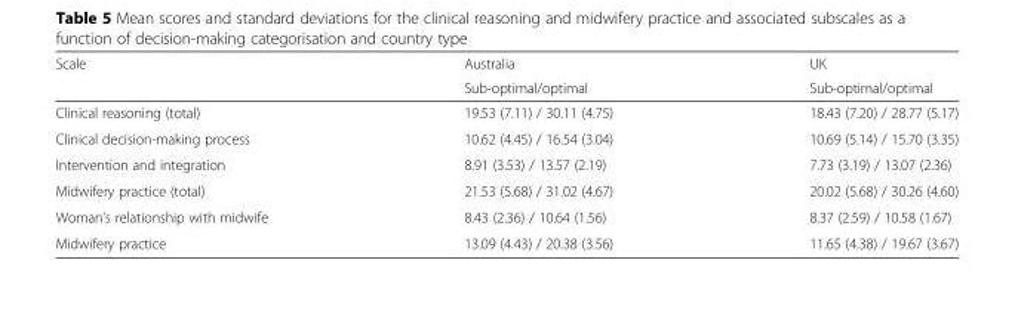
<table><thead><tr><td rowspan="2">Scale</td><td rowspan="2">Australia Sub-optimal/optimal</td><td rowspan="2">UK Sub-optimal/optimal</td></tr><tr></tr></thead><tbody><tr><td>Clinical reasoning (total)</td><td>19.53 (7.11) / 30.11 (4.75)</td><td>18.43 (7.20) / 28.77 (5.17)</td></tr><tr><td>Clinical decision-making process</td><td>10.62 (4.45) / 16.54 (3.04)</td><td>10.69 (5.14) / 15.70 (3.35)</td></tr><tr><td>Intervention and integration</td><td>8.91 (3.53) / 13.57 (2.19)</td><td>7.73 (3.19) / 13.07 (2.36)</td></tr><tr><td>Midwifery practice (total)</td><td>21.53 (5.68) / 31.02 (4.67)</td><td>20.02 (5.68) / 30.26 (4.60)</td></tr><tr><td>Woman’s relationship with midwife</td><td>8.43 (2.36) / 10.64 (1.56)</td><td>8.37 (2.59) / 10.58 (1.67)</td></tr><tr><td>Midwifery practice</td><td>13.09 (4.43) / 20.38 (3.56)</td><td>11.65 (4.38) / 19.67 (3.67)</td></tr></tbody></table>